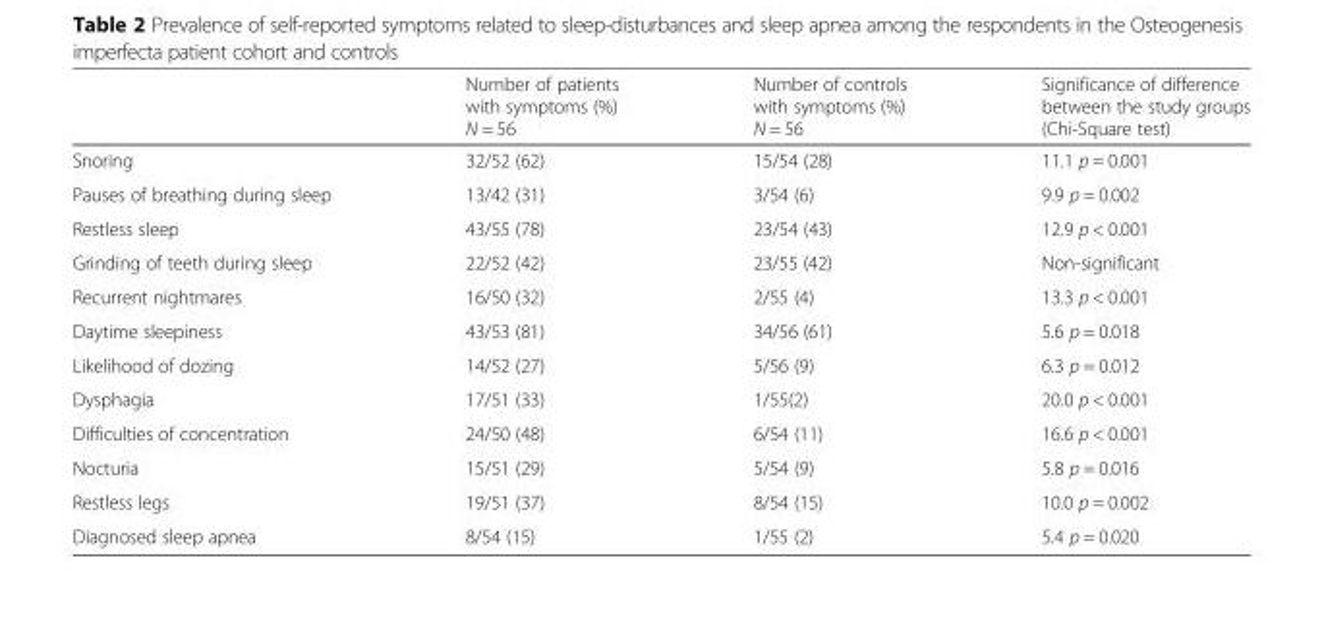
<table><thead><tr><td></td><td>Number of patients with symptoms (%) N = 56</td><td>Number of controls with symptoms (%) N = 56</td><td>Significance of difference between the study groups (Chi-Square test)</td></tr></thead><tbody><tr><td>Snoring</td><td>32/52 (62)</td><td>15/54 (28)</td><td>11.1 p = 0.001</td></tr><tr><td>Pauses of breathing during sleep</td><td>13/42 (31)</td><td>3/54 (6)</td><td>9.9 p = 0.002</td></tr><tr><td>Restless sleep</td><td>43/55 (78)</td><td>23/54 (43)</td><td>12.9 p &lt; 0.001</td></tr><tr><td>Grinding of teeth during sleep</td><td>22/52 (42)</td><td>23/55 (42)</td><td>Non-significant</td></tr><tr><td>Recurrent nightmares</td><td>16/50 (32)</td><td>2/55 (4)</td><td>13.3 p &lt; 0.001</td></tr><tr><td>Daytime sleepiness</td><td>43/53 (81)</td><td>34/56 (61)</td><td>5.6 p = 0.018</td></tr><tr><td>Likelihood of dozing</td><td>14/52 (27)</td><td>5/56 (9)</td><td>6.3 p = 0.012</td></tr><tr><td>Dysphagia</td><td>17/51 (33)</td><td>1/55(2)</td><td>20.0 p &lt; 0.001</td></tr><tr><td>Difficulties of concentration</td><td>24/50 (48)</td><td>6/54 (11)</td><td>16.6 p &lt; 0.001</td></tr><tr><td>Nocturia</td><td>15/51 (29)</td><td>5/54 (9)</td><td>5.8 p = 0.016</td></tr><tr><td>Restless legs</td><td>19/51 (37)</td><td>8/54 (15)</td><td>10.0 p = 0.002</td></tr><tr><td>Diagnosed sleep apnea</td><td>8/54 (15)</td><td>1/55 (2)</td><td>5.4 p = 0.020</td></tr></tbody></table>